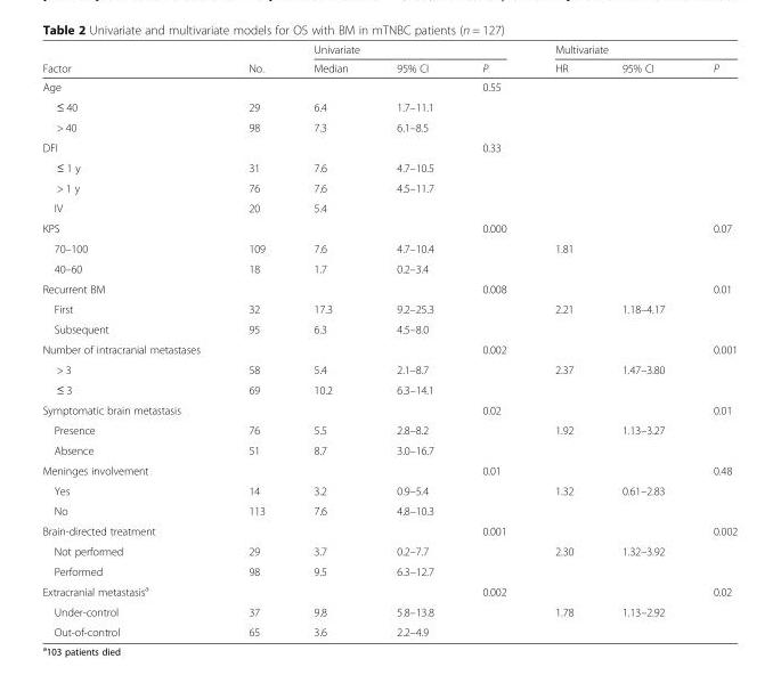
<table><thead><tr><td rowspan="2">Factor</td><td rowspan="2">No.</td><td colspan="3">Univariate</td><td colspan="3">Multivariate</td></tr><tr><td>Median</td><td>95% CI</td><td>P</td><td>HR</td><td>95% CI</td><td>P</td></tr></thead><tbody><tr><td>Age</td><td></td><td></td><td></td><td>0.55</td><td></td><td></td><td></td></tr><tr><td>≤ 40</td><td>29</td><td>6.4</td><td>1.7–11.1</td><td></td><td></td><td></td><td></td></tr><tr><td>&gt; 40</td><td>98</td><td>7.3</td><td>6.1–8.5</td><td></td><td></td><td></td><td></td></tr><tr><td>DFI</td><td></td><td></td><td></td><td>0.33</td><td></td><td></td><td></td></tr><tr><td>≤ 1 y</td><td>31</td><td>7.6</td><td>4.7–10.5</td><td></td><td></td><td></td><td></td></tr><tr><td>&gt; 1 y</td><td>76</td><td>7.6</td><td>4.5–11.7</td><td></td><td></td><td></td><td></td></tr><tr><td>IV</td><td>20</td><td>5.4</td><td></td><td></td><td></td><td></td><td></td></tr><tr><td>KPS</td><td></td><td></td><td></td><td>0.000</td><td></td><td></td><td>0.07</td></tr><tr><td>70–100</td><td>109</td><td>7.6</td><td>4.7–10.4</td><td></td><td>1.81</td><td></td><td></td></tr><tr><td>40–60</td><td>18</td><td>1.7</td><td>0.2–3.4</td><td></td><td></td><td></td><td></td></tr><tr><td>Recurrent BM</td><td></td><td></td><td></td><td>0.008</td><td></td><td></td><td>0.01</td></tr><tr><td>First</td><td>32</td><td>17.3</td><td>9.2–25.3</td><td></td><td>2.21</td><td>1.18–4.17</td><td></td></tr><tr><td>Subsequent</td><td>95</td><td>6.3</td><td>4.5–8.0</td><td></td><td></td><td></td><td></td></tr><tr><td>Number of intracranial metastases</td><td></td><td></td><td></td><td>0.002</td><td></td><td></td><td>0.001</td></tr><tr><td>&gt; 3</td><td>58</td><td>5.4</td><td>2.1–8.7</td><td></td><td>2.37</td><td>1.47–3.80</td><td></td></tr><tr><td>≤ 3</td><td>69</td><td>10.2</td><td>6.3–14.1</td><td></td><td></td><td></td><td></td></tr><tr><td>Symptomatic brain metastasis</td><td></td><td></td><td></td><td>0.02</td><td></td><td></td><td>0.01</td></tr><tr><td>Presence</td><td>76</td><td>5.5</td><td>2.8–8.2</td><td></td><td>1.92</td><td>1.13–3.27</td><td></td></tr><tr><td>Absence</td><td>51</td><td>8.7</td><td>3.0–16.7</td><td></td><td></td><td></td><td></td></tr><tr><td>Meninges involvement</td><td></td><td></td><td></td><td>0.01</td><td></td><td></td><td>0.48</td></tr><tr><td>Yes</td><td>14</td><td>3.2</td><td>0.9–5.4</td><td></td><td>1.32</td><td>0.61–2.83</td><td></td></tr><tr><td>No</td><td>113</td><td>7.6</td><td>4.8–10.3</td><td></td><td></td><td></td><td></td></tr><tr><td>Brain-directed treatment</td><td></td><td></td><td></td><td>0.001</td><td></td><td></td><td>0.002</td></tr><tr><td>Not performed</td><td>29</td><td>3.7</td><td>0.2–7.7</td><td></td><td>2.30</td><td>1.32–3.92</td><td></td></tr><tr><td>Performed</td><td>98</td><td>9.5</td><td>6.3–12.7</td><td></td><td></td><td></td><td></td></tr><tr><td>Extracranial metastasis<sup>a</sup></td><td></td><td></td><td></td><td>0.002</td><td></td><td></td><td>0.02</td></tr><tr><td>Under-control</td><td>37</td><td>9.8</td><td>5.8–13.8</td><td></td><td>1.78</td><td>1.13–2.92</td><td></td></tr><tr><td>Out-of-control</td><td>65</td><td>3.6</td><td>2.2–4.9</td><td></td><td></td><td></td><td></td></tr></tbody></table>